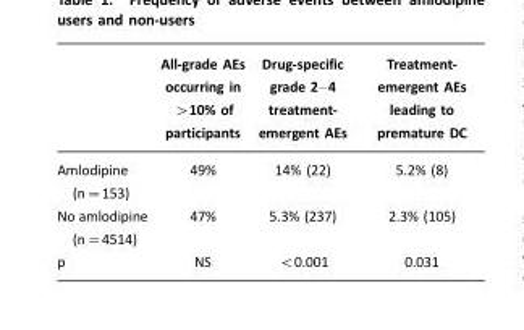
<table><thead><tr><td></td><td>All-grade AEs occurring in &gt;10% of participants</td><td>Drug-specific grade 2–4 treatment- emergent AEs</td><td>Treatment- emergent AEs leading to premature DC</td></tr></thead><tbody><tr><td>Amlodipine (n=153)</td><td>49%</td><td>14% (22)</td><td>5.2% (8)</td></tr><tr><td>No amlodipine (n=4514)</td><td>47%</td><td>5.3% (237)</td><td>2.3% (105)</td></tr><tr><td>p</td><td>NS</td><td>&lt;0.001</td><td>0.031</td></tr></tbody></table>